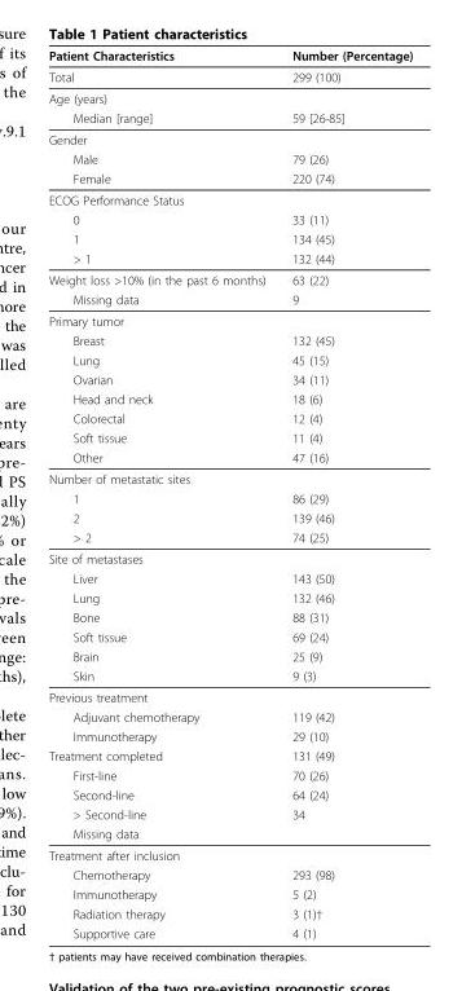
<table><thead><tr><td>Patient Characteristics</td><td>Number (Percentage)</td></tr></thead><tbody><tr><td>Total</td><td>299 (100)</td></tr><tr><td colspan="2">Age (years)</td></tr><tr><td>Median [range]</td><td>59 [26-85]</td></tr><tr><td colspan="2">Gender</td></tr><tr><td>Male</td><td>79 (26)</td></tr><tr><td>Female</td><td>220 (74)</td></tr><tr><td colspan="2">ECOG Performance Status</td></tr><tr><td>0</td><td>33 (11)</td></tr><tr><td>1</td><td>134 (45)</td></tr><tr><td>&gt; 1</td><td>132 (44)</td></tr><tr><td>Weight loss &gt;10% (in the past 6 months)</td><td>63 (22)</td></tr><tr><td>Missing data</td><td>9</td></tr><tr><td colspan="2">Primary tumor</td></tr><tr><td>Breast</td><td>132 (45)</td></tr><tr><td>Lung</td><td>45 (15)</td></tr><tr><td>Ovarian</td><td>34 (11)</td></tr><tr><td>Head and neck</td><td>18 (6)</td></tr><tr><td>Colorectal</td><td>12 (4)</td></tr><tr><td>Soft tissue</td><td>11 (4)</td></tr><tr><td>Other</td><td>47 (16)</td></tr><tr><td colspan="2">Number of metastatic sites</td></tr><tr><td>1</td><td>86 (29)</td></tr><tr><td>2</td><td>139 (46)</td></tr><tr><td>&gt; 2</td><td>74 (25)</td></tr><tr><td colspan="2">Site of metastases</td></tr><tr><td>Liver</td><td>143 (50)</td></tr><tr><td>Lung</td><td>132 (46)</td></tr><tr><td>Bone</td><td>88 (31)</td></tr><tr><td>Soft tissue</td><td>69 (24)</td></tr><tr><td>Brain</td><td>25 (9)</td></tr><tr><td>Skin</td><td>9 (3)</td></tr><tr><td colspan="2">Previous treatment</td></tr><tr><td>Adjuvant chemotherapy</td><td>119 (42)</td></tr><tr><td>Immunotherapy</td><td>29 (10)</td></tr><tr><td>Treatment completed</td><td>131 (49)</td></tr><tr><td>First-line</td><td>70 (26)</td></tr><tr><td>Second-line</td><td>64 (24)</td></tr><tr><td>&gt; Second-line</td><td>34</td></tr><tr><td colspan="2">Missing data</td></tr><tr><td colspan="2">Treatment after inclusion</td></tr><tr><td>Chemotherapy</td><td>293 (98)</td></tr><tr><td>Immunotherapy</td><td>5 (2)</td></tr><tr><td>Radiation therapy</td><td>3 (1)†</td></tr><tr><td>Supportive care</td><td>4 (1)</td></tr></tbody></table>